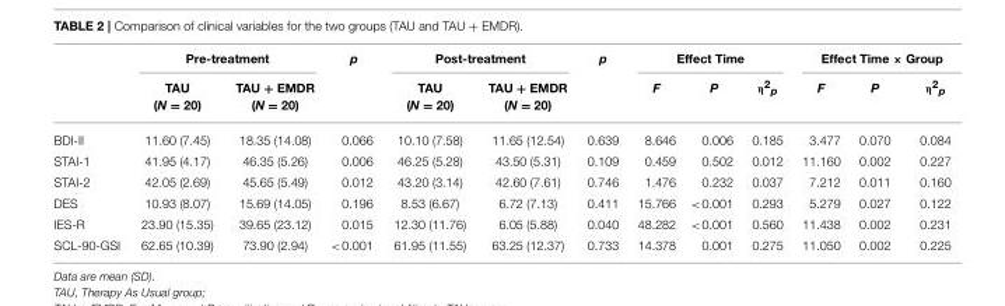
<table><thead><tr><td rowspan="2"></td><td colspan="2">Pre-treatment</td><td rowspan="2">p</td><td colspan="2">Post-treatment</td><td rowspan="2">p</td><td colspan="3">Effect Time</td><td colspan="3">Effect Time × Group</td></tr><tr><td>TAU (N = 20)</td><td>TAU + EMDR (N = 20)</td><td>TAU (N = 20)</td><td>TAU + EMDR (N = 20)</td><td>F</td><td>P</td><td>η2p</td><td>F</td><td>P</td><td>η2p</td></tr></thead><tbody><tr><td>BDI-II</td><td>11.60 (7.45)</td><td>18.35 (14.08)</td><td>0.066</td><td>10.10 (7.58)</td><td>11.65 (12.54)</td><td>0.639</td><td>8.646</td><td>0.006</td><td>0.185</td><td>3.477</td><td>0.070</td><td>0.084</td></tr><tr><td>STAI-1</td><td>41.95 (4.17)</td><td>46.35 (5.26)</td><td>0.006</td><td>46.25 (5.28)</td><td>43.50 (5.31)</td><td>0.109</td><td>0.459</td><td>0.502</td><td>0.012</td><td>11.160</td><td>0.002</td><td>0.227</td></tr><tr><td>STAI-2</td><td>42.05 (2.69)</td><td>45.65 (5.49)</td><td>0.012</td><td>43.20 (3.14)</td><td>42.60 (7.61)</td><td>0.746</td><td>1.476</td><td>0.232</td><td>0.037</td><td>7.212</td><td>0.011</td><td>0.160</td></tr><tr><td>DES</td><td>10.93 (8.07)</td><td>15.69 (14.05)</td><td>0.196</td><td>8.53 (6.67)</td><td>6.72 (7.13)</td><td>0.411</td><td>15.766</td><td>&lt;0.001</td><td>0.293</td><td>5.279</td><td>0.027</td><td>0.122</td></tr><tr><td>IES-R</td><td>23.90 (15.35)</td><td>39.65 (23.12)</td><td>0.015</td><td>12.30 (11.76)</td><td>6.05 (5.88)</td><td>0.040</td><td>48.282</td><td>&lt;0.001</td><td>0.560</td><td>11.438</td><td>0.002</td><td>0.231</td></tr><tr><td>SCL-90-GSI</td><td>62.65 (10.39)</td><td>73.90 (2.94)</td><td>&lt;0.001</td><td>61.95 (11.55)</td><td>63.25 (12.37)</td><td>0.733</td><td>14.378</td><td>0.001</td><td>0.275</td><td>11.050</td><td>0.002</td><td>0.225</td></tr></tbody></table>